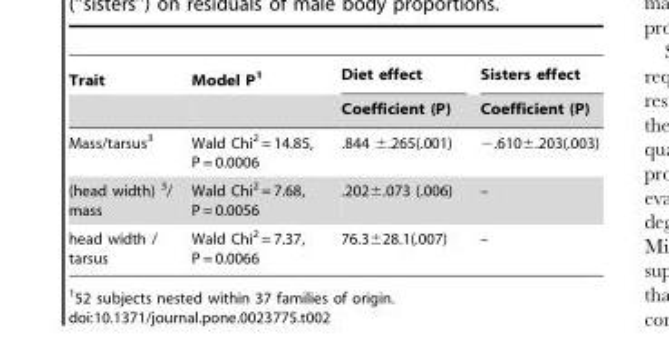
<table><thead><tr><td rowspan="2">Trait</td><td rowspan="2">Model P<sup>1</sup></td><td rowspan="2">Diet effect Coefficient (P)</td><td rowspan="2">Sisters effect Coefficient (P)</td></tr><tr></tr></thead><tbody><tr><td>Mass/tarsus<sup>3</sup></td><td>Wald Chi<sup>2</sup> = 14.85, P = 0.0006</td><td>.844 ±.265(.001)</td><td>−.610±.203(.003)</td></tr><tr><td>(head width) <sup>3</sup>/ mass</td><td>Wald Chi<sup>2</sup> = 7.68, P = 0.0056</td><td>.202±.073 (.006)</td><td>–</td></tr><tr><td>head width / tarsus</td><td>Wald Chi<sup>2</sup> = 7.37, P = 0.0066</td><td>76.3±28.1(.007)</td><td>–</td></tr></tbody></table>